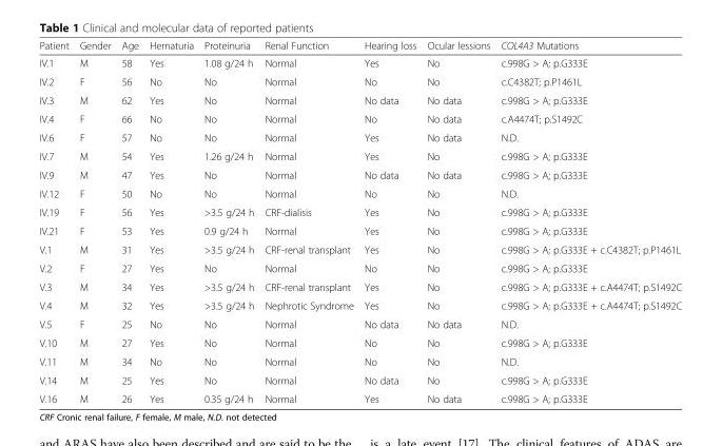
<table><thead><tr><td>Patient</td><td>Gender</td><td>Age</td><td>Hematuria</td><td>Proteinuria</td><td>Renal Function</td><td>Hearing loss</td><td>Ocular lessions</td><td>COL4A3 Mutations</td></tr></thead><tbody><tr><td>IV.1</td><td>M</td><td>58</td><td>Yes</td><td>1.08 g/24 h</td><td>Normal</td><td>Yes</td><td>No</td><td>c.998G &gt; A; p.G333E</td></tr><tr><td>IV.2</td><td>F</td><td>56</td><td>No</td><td>No</td><td>Normal</td><td>No</td><td>No</td><td>c.C4382T; p.P1461L</td></tr><tr><td>IV.3</td><td>M</td><td>62</td><td>Yes</td><td>No</td><td>Normal</td><td>No data</td><td>No data</td><td>c.998G &gt; A; p.G333E</td></tr><tr><td>IV.4</td><td>F</td><td>66</td><td>No</td><td>No</td><td>Normal</td><td>No</td><td>No data</td><td>c.A4474T; p.S1492C</td></tr><tr><td>IV.6</td><td>F</td><td>57</td><td>No</td><td>No</td><td>Normal</td><td>Yes</td><td>No data</td><td>N.D.</td></tr><tr><td>IV.7</td><td>M</td><td>54</td><td>Yes</td><td>1.26 g/24 h</td><td>Normal</td><td>Yes</td><td>No</td><td>c.998G &gt; A; p.G333E</td></tr><tr><td>IV.9</td><td>M</td><td>47</td><td>Yes</td><td>No</td><td>Normal</td><td>No data</td><td>No data</td><td>c.998G &gt; A; p.G333E</td></tr><tr><td>IV.12</td><td>F</td><td>50</td><td>No</td><td>No</td><td>Normal</td><td>No</td><td>No</td><td>N.D.</td></tr><tr><td>IV.19</td><td>F</td><td>56</td><td>Yes</td><td>&gt;3.5 g/24 h</td><td>CRF-dialisis</td><td>Yes</td><td>No</td><td>c.998G &gt; A; p.G333E</td></tr><tr><td>IV.21</td><td>F</td><td>53</td><td>Yes</td><td>0.9 g/24 h</td><td>Normal</td><td>Yes</td><td>No</td><td>c.998G &gt; A; p.G333E</td></tr><tr><td>V.1</td><td>M</td><td>31</td><td>Yes</td><td>&gt;3.5 g/24 h</td><td>CRF-renal transplant</td><td>Yes</td><td>No</td><td>c.998G &gt; A; p.G333E + c.C4382T; p.P1461L</td></tr><tr><td>V.2</td><td>F</td><td>27</td><td>Yes</td><td>No</td><td>Normal</td><td>No</td><td>No</td><td>c.998G &gt; A; p.G333E</td></tr><tr><td>V.3</td><td>M</td><td>34</td><td>Yes</td><td>&gt;3.5 g/24 h</td><td>CRF-renal transplant</td><td>Yes</td><td>No</td><td>c.998G &gt; A; p.G333E + c.A4474T; p.S1492C</td></tr><tr><td>V.4</td><td>M</td><td>32</td><td>Yes</td><td>&gt;3.5 g/24 h</td><td>Nephrotic Syndrome</td><td>Yes</td><td>No</td><td>c.998G &gt; A; p.G333E + c.A4474T; p.S1492C</td></tr><tr><td>V.5</td><td>F</td><td>25</td><td>No</td><td>No</td><td>Normal</td><td>No data</td><td>No data</td><td>N.D.</td></tr><tr><td>V.10</td><td>M</td><td>27</td><td>Yes</td><td>No</td><td>Normal</td><td>No</td><td>No</td><td>c.998G &gt; A; p.G333E</td></tr><tr><td>V.11</td><td>M</td><td>34</td><td>No</td><td>No</td><td>Normal</td><td>No</td><td>No</td><td>N.D.</td></tr><tr><td>V.14</td><td>M</td><td>25</td><td>Yes</td><td>No</td><td>Normal</td><td>No data</td><td>No</td><td>c.998G &gt; A; p.G333E</td></tr><tr><td>V.16</td><td>M</td><td>26</td><td>Yes</td><td>0.35 g/24 h</td><td>Normal</td><td>Yes</td><td>No data</td><td>c.998G &gt; A; p.G333E</td></tr></tbody></table>